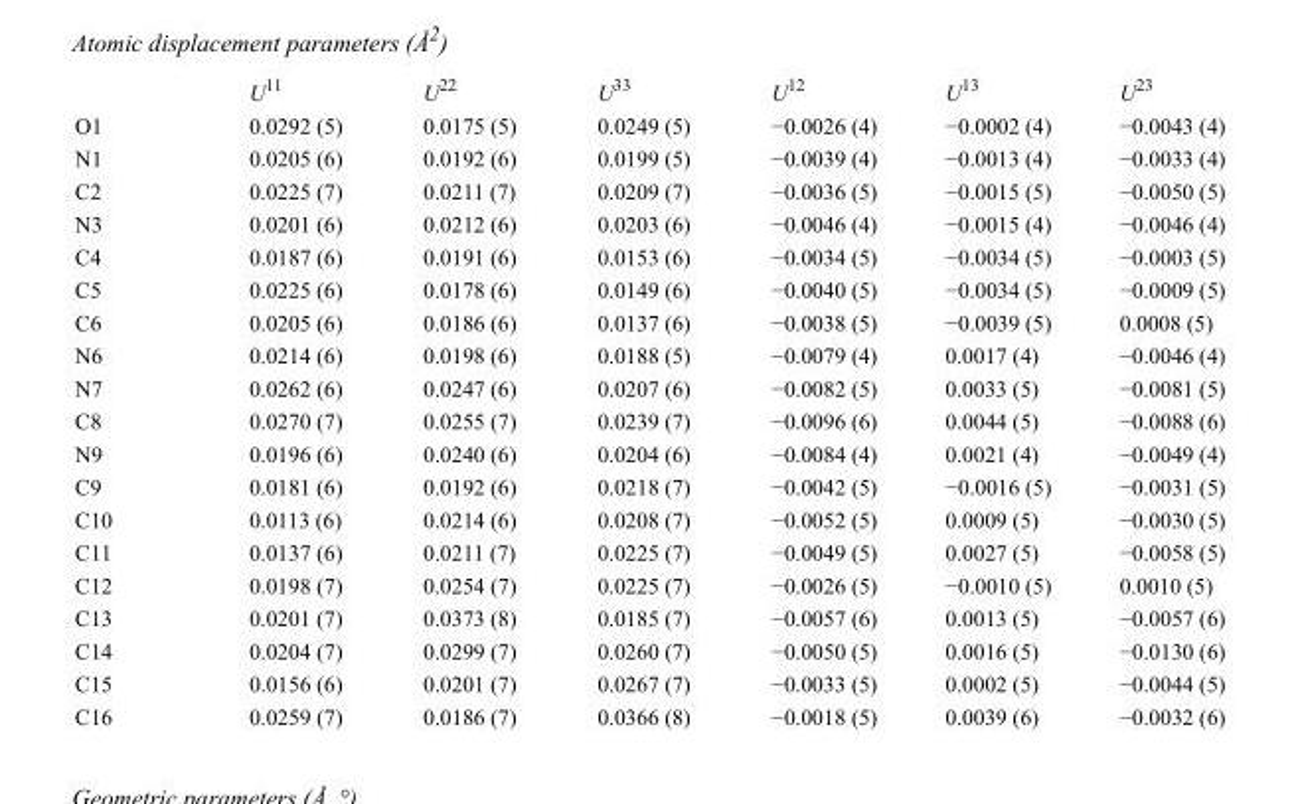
<table><thead><tr><td></td><td>U<sup>11</sup></td><td>U<sup>22</sup></td><td>U<sup>33</sup></td><td>U<sup>12</sup></td><td>U<sup>13</sup></td><td>U<sup>23</sup></td></tr></thead><tbody><tr><td>O1</td><td>0.0292 (5)</td><td>0.0175 (5)</td><td>0.0249 (5)</td><td>−0.0026 (4)</td><td>−0.0002 (4)</td><td>−0.0043 (4)</td></tr><tr><td>N1</td><td>0.0205 (6)</td><td>0.0192 (6)</td><td>0.0199 (5)</td><td>−0.0039 (4)</td><td>−0.0013 (4)</td><td>−0.0033 (4)</td></tr><tr><td>C2</td><td>0.0225 (7)</td><td>0.0211 (7)</td><td>0.0209 (7)</td><td>−0.0036 (5)</td><td>−0.0015 (5)</td><td>−0.0050 (5)</td></tr><tr><td>N3</td><td>0.0201 (6)</td><td>0.0212 (6)</td><td>0.0203 (6)</td><td>−0.0046 (4)</td><td>−0.0015 (4)</td><td>−0.0046 (4)</td></tr><tr><td>C4</td><td>0.0187 (6)</td><td>0.0191 (6)</td><td>0.0153 (6)</td><td>−0.0034 (5)</td><td>−0.0034 (5)</td><td>−0.0003 (5)</td></tr><tr><td>C5</td><td>0.0225 (6)</td><td>0.0178 (6)</td><td>0.0149 (6)</td><td>−0.0040 (5)</td><td>−0.0034 (5)</td><td>−0.0009 (5)</td></tr><tr><td>C6</td><td>0.0205 (6)</td><td>0.0186 (6)</td><td>0.0137 (6)</td><td>−0.0038 (5)</td><td>−0.0039 (5)</td><td>0.0008 (5)</td></tr><tr><td>N6</td><td>0.0214 (6)</td><td>0.0198 (6)</td><td>0.0188 (5)</td><td>−0.0079 (4)</td><td>0.0017 (4)</td><td>−0.0046 (4)</td></tr><tr><td>N7</td><td>0.0262 (6)</td><td>0.0247 (6)</td><td>0.0207 (6)</td><td>−0.0082 (5)</td><td>0.0033 (5)</td><td>−0.0081 (5)</td></tr><tr><td>C8</td><td>0.0270 (7)</td><td>0.0255 (7)</td><td>0.0239 (7)</td><td>−0.0096 (6)</td><td>0.0044 (5)</td><td>−0.0088 (6)</td></tr><tr><td>N9</td><td>0.0196 (6)</td><td>0.0240 (6)</td><td>0.0204 (6)</td><td>−0.0084 (4)</td><td>0.0021 (4)</td><td>−0.0049 (4)</td></tr><tr><td>C9</td><td>0.0181 (6)</td><td>0.0192 (6)</td><td>0.0218 (7)</td><td>−0.0042 (5)</td><td>−0.0016 (5)</td><td>−0.0031 (5)</td></tr><tr><td>C10</td><td>0.0113 (6)</td><td>0.0214 (6)</td><td>0.0208 (7)</td><td>−0.0052 (5)</td><td>0.0009 (5)</td><td>−0.0030 (5)</td></tr><tr><td>C11</td><td>0.0137 (6)</td><td>0.0211 (7)</td><td>0.0225 (7)</td><td>−0.0049 (5)</td><td>0.0027 (5)</td><td>−0.0058 (5)</td></tr><tr><td>C12</td><td>0.0198 (7)</td><td>0.0254 (7)</td><td>0.0225 (7)</td><td>−0.0026 (5)</td><td>−0.0010 (5)</td><td>0.0010 (5)</td></tr><tr><td>C13</td><td>0.0201 (7)</td><td>0.0373 (8)</td><td>0.0185 (7)</td><td>−0.0057 (6)</td><td>0.0013 (5)</td><td>−0.0057 (6)</td></tr><tr><td>C14</td><td>0.0204 (7)</td><td>0.0299 (7)</td><td>0.0260 (7)</td><td>−0.0050 (5)</td><td>0.0016 (5)</td><td>−0.0130 (6)</td></tr><tr><td>C15</td><td>0.0156 (6)</td><td>0.0201 (7)</td><td>0.0267 (7)</td><td>−0.0033 (5)</td><td>0.0002 (5)</td><td>−0.0044 (5)</td></tr><tr><td>C16</td><td>0.0259 (7)</td><td>0.0186 (7)</td><td>0.0366 (8)</td><td>−0.0018 (5)</td><td>0.0039 (6)</td><td>−0.0032 (6)</td></tr></tbody></table>